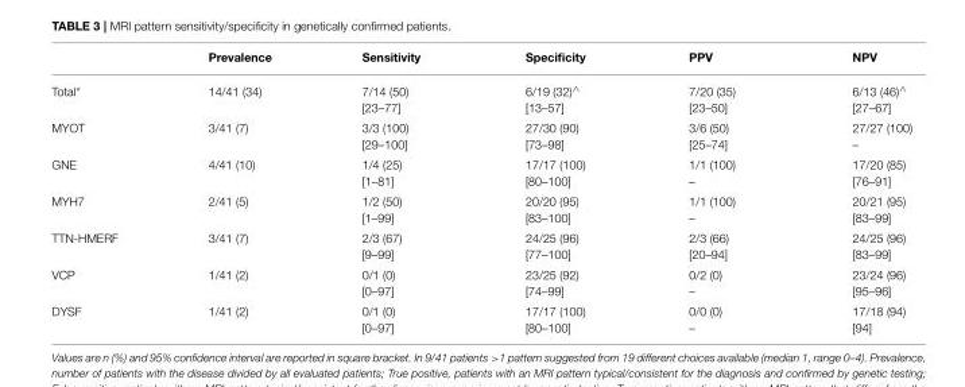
<table><thead><tr><td></td><td>Prevalence</td><td>Sensitivity</td><td>Specificity</td><td>PPV</td><td>NPV</td></tr></thead><tbody><tr><td>Total*</td><td>14/41 (34)</td><td>7/14 (50) [23–77]</td><td>6/19 (32)<sup>∧</sup> [13–57]</td><td>7/20 (35) [23–50]</td><td>6/13 (46)<sup>∧</sup> [27–67]</td></tr><tr><td>MYOT</td><td>3/41 (7)</td><td>3/3 (100) [29–100]</td><td>27/30 (90) [73–98]</td><td>3/6 (50) [25–74]</td><td>27/27 (100) –</td></tr><tr><td>GNE</td><td>4/41 (10)</td><td>1/4 (25) [1–81]</td><td>17/17 (100) [80–100]</td><td>1/1 (100) –</td><td>17/20 (85) [76–91]</td></tr><tr><td>MYH7</td><td>2/41 (5)</td><td>1/2 (50) [1–99]</td><td>20/20 (95) [83–100]</td><td>1/1 (100) –</td><td>20/21 (95) [83–99]</td></tr><tr><td>TTN-HMERF</td><td>3/41 (7)</td><td>2/3 (67) [9–99]</td><td>24/25 (96) [77–100]</td><td>2/3 (66) [20–94]</td><td>24/25 (96) [83–99]</td></tr><tr><td>VCP</td><td>1/41 (2)</td><td>0/1 (0) [0–97]</td><td>23/25 (92) [74–99]</td><td>0/2 (0) –</td><td>23/24 (96) [95–96]</td></tr><tr><td>DYSF</td><td>1/41 (2)</td><td>0/1 (0) [0–97]</td><td>17/17 (100) [80–100]</td><td>0/0 (0) –</td><td>17/18 (94) [94]</td></tr></tbody></table>